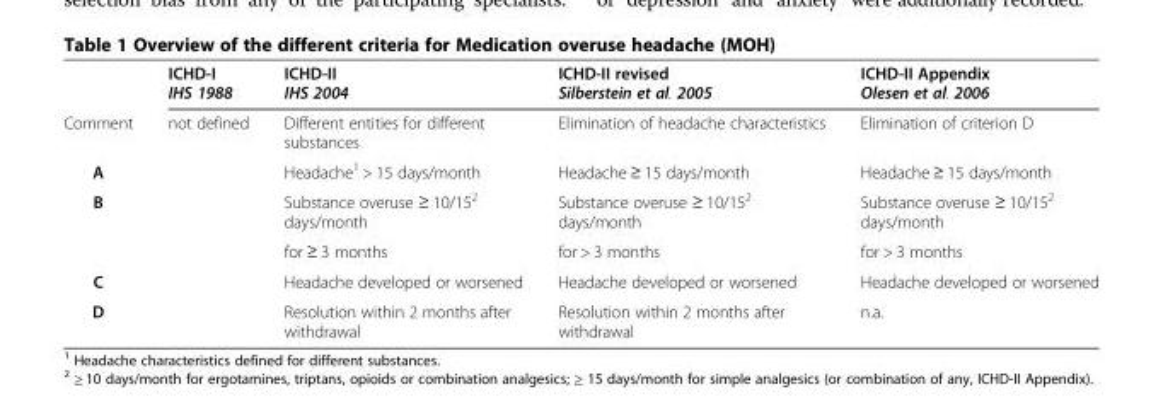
<table><thead><tr><td rowspan="2"></td><td rowspan="2">ICHD-I IHS 1988</td><td rowspan="2">ICHD-II IHS 2004</td><td rowspan="2">ICHD-II revised Silberstein et al. 2005</td><td rowspan="2">ICHD-II Appendix Olesen et al. 2006</td></tr><tr></tr></thead><tbody><tr><td>Comment</td><td>not defined</td><td>Different entities for different substances</td><td>Elimination of headache characteristics</td><td>Elimination of criterion D</td></tr><tr><td>A</td><td></td><td>Headache<sup>1</sup> &gt; 15 days/month</td><td>Headache ≥ 15 days/month</td><td>Headache ≥ 15 days/month</td></tr><tr><td rowspan="2">B</td><td></td><td>Substance overuse ≥ 10/15<sup>2</sup> days/month</td><td>Substance overuse ≥ 10/15<sup>2</sup> days/month</td><td>Substance overuse ≥ 10/15<sup>2</sup> days/month</td></tr><tr><td></td><td>for ≥ 3 months</td><td>for &gt; 3 months</td><td>for &gt; 3 months</td></tr><tr><td>C</td><td></td><td>Headache developed or worsened</td><td>Headache developed or worsened</td><td>Headache developed or worsened</td></tr><tr><td>D</td><td></td><td>Resolution within 2 months after withdrawal</td><td>Resolution within 2 months after withdrawal</td><td>n.a.</td></tr></tbody></table>